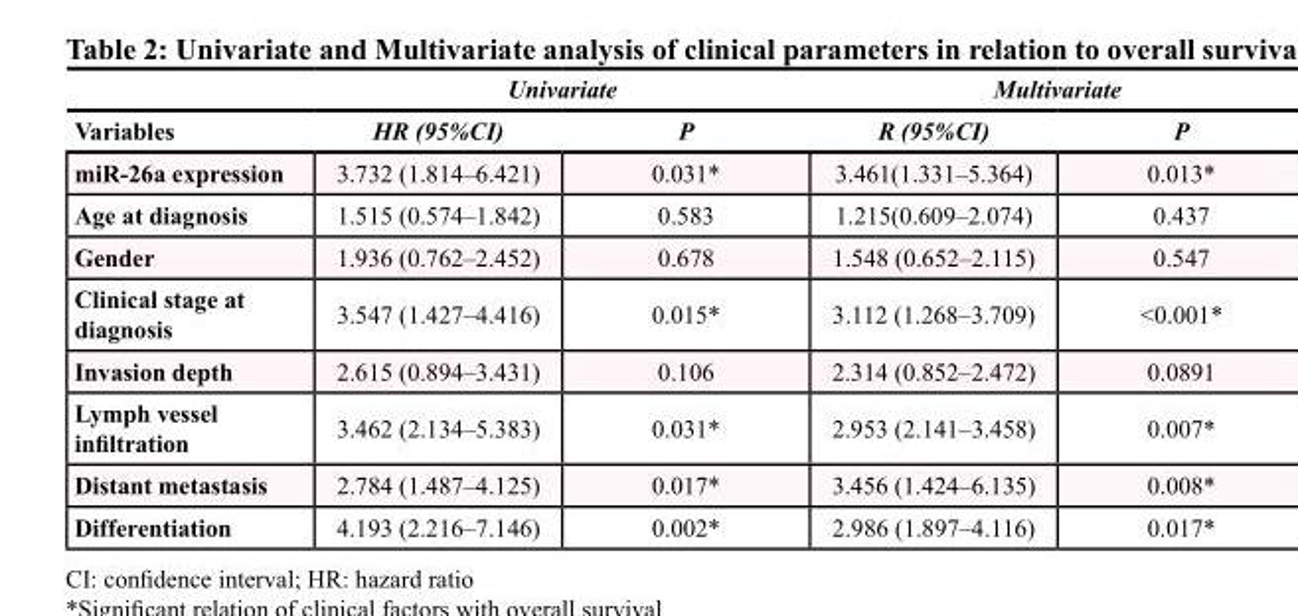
<table><thead><tr><td rowspan="2">Variables</td><td colspan="2">Univariate</td><td colspan="2">Multivariate</td></tr><tr><td>HR (95%CI)</td><td>P</td><td>R (95%CI)</td><td>P</td></tr></thead><tbody><tr><td>miR-26a expression</td><td>3.732 (1.814–6.421)</td><td>0.031*</td><td>3.461(1.331–5.364)</td><td>0.013*</td></tr><tr><td>Age at diagnosis</td><td>1.515 (0.574–1.842)</td><td>0.583</td><td>1.215(0.609–2.074)</td><td>0.437</td></tr><tr><td>Gender</td><td>1.936 (0.762–2.452)</td><td>0.678</td><td>1.548 (0.652–2.115)</td><td>0.547</td></tr><tr><td>Clinical stage at diagnosis</td><td>3.547 (1.427–4.416)</td><td>0.015*</td><td>3.112 (1.268–3.709)</td><td>&lt;0.001*</td></tr><tr><td>Invasion depth</td><td>2.615 (0.894–3.431)</td><td>0.106</td><td>2.314 (0.852–2.472)</td><td>0.0891</td></tr><tr><td>Lymph vessel infiltration</td><td>3.462 (2.134–5.383)</td><td>0.031*</td><td>2.953 (2.141–3.458)</td><td>0.007*</td></tr><tr><td>Distant metastasis</td><td>2.784 (1.487–4.125)</td><td>0.017*</td><td>3.456 (1.424–6.135)</td><td>0.008*</td></tr><tr><td>Differentiation</td><td>4.193 (2.216–7.146)</td><td>0.002*</td><td>2.986 (1.897–4.116)</td><td>0.017*</td></tr></tbody></table>